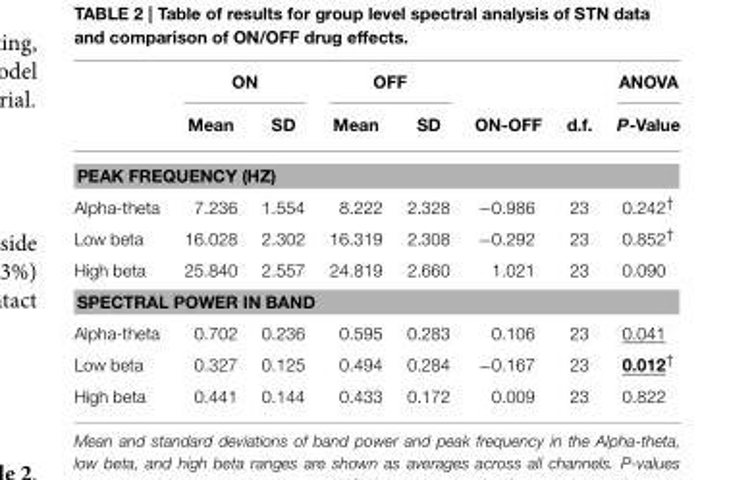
<table><thead><tr><td rowspan="2"></td><td colspan="2">ON</td><td colspan="2">OFF</td><td rowspan="2">ON-OFF</td><td rowspan="2">d.f.</td><td rowspan="2">ANOVA P-Value</td></tr><tr><td>Mean</td><td>SD</td><td>Mean</td><td>SD</td></tr></thead><tbody><tr><td colspan="8">PEAK FREQUENCY (HZ)</td></tr><tr><td>Alpha-theta</td><td>7.236</td><td>1.554</td><td>8.222</td><td>2.328</td><td>−0.986</td><td>23</td><td>0.242<sup>†</sup></td></tr><tr><td>Low beta</td><td>16.028</td><td>2.302</td><td>16.319</td><td>2.308</td><td>−0.292</td><td>23</td><td>0.852<sup>†</sup></td></tr><tr><td>High beta</td><td>25.840</td><td>2.557</td><td>24.819</td><td>2.660</td><td>1.021</td><td>23</td><td>0.090</td></tr><tr><td colspan="8">SPECTRAL POWER IN BAND</td></tr><tr><td>Alpha-theta</td><td>0.702</td><td>0.236</td><td>0.595</td><td>0.283</td><td>0.106</td><td>23</td><td>0.041</td></tr><tr><td>Low beta</td><td>0.327</td><td>0.125</td><td>0.494</td><td>0.284</td><td>−0.167</td><td>23</td><td>0.012<sup>†</sup></td></tr><tr><td>High beta</td><td>0.441</td><td>0.144</td><td>0.433</td><td>0.172</td><td>0.009</td><td>23</td><td>0.822</td></tr></tbody></table>